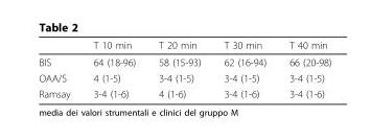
<table><thead><tr><td></td><td>T 10 min</td><td>T 20 min</td><td>T 30 min</td><td>T 40 min</td></tr></thead><tbody><tr><td>BIS</td><td>64 (18-96)</td><td>58 (15-93)</td><td>62 (16-94)</td><td>66 (20-98)</td></tr><tr><td>OAA/S</td><td>4 (1-5)</td><td>3-4 (1-5)</td><td>3-4 (1-5)</td><td>3-4 (1-5)</td></tr><tr><td>Ramsay</td><td>3-4 (1-6)</td><td>4 (1-6)</td><td>3-4 (1-6)</td><td>3-4 (1-6)</td></tr></tbody></table>